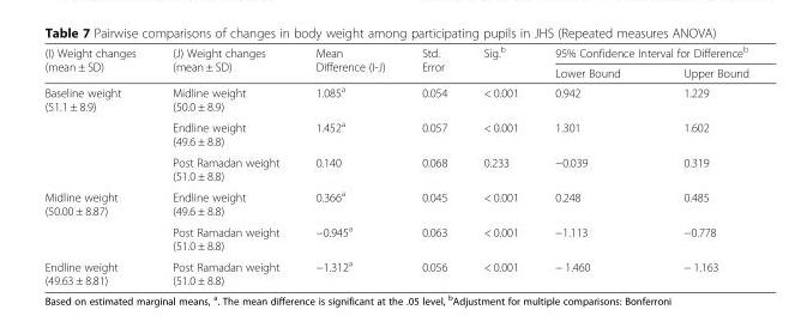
<table><thead><tr><td rowspan="2">(I) Weight changes (mean ± SD)</td><td rowspan="2">(J) Weight changes (mean ± SD)</td><td rowspan="2">Mean Difference (I-J)</td><td rowspan="2">Std. Error</td><td rowspan="2">Sig.<sup>b</sup></td><td colspan="2">95% Confidence Interval for Difference<sup>b</sup></td></tr><tr><td>Lower Bound</td><td>Upper Bound</td></tr></thead><tbody><tr><td rowspan="3">Baseline weight (51.1 ± 8.9)</td><td>Midline weight (50.0 ± 8.9)</td><td>1.085<sup>a</sup></td><td>0.054</td><td>&lt; 0.001</td><td>0.942</td><td>1.229</td></tr><tr><td>Endline weight (49.6 ± 8.8)</td><td>1.452<sup>a</sup></td><td>0.057</td><td>&lt; 0.001</td><td>1.301</td><td>1.602</td></tr><tr><td>Post Ramadan weight (51.0 ± 8.8)</td><td>0.140</td><td>0.068</td><td>0.233</td><td>−0.039</td><td>0.319</td></tr><tr><td rowspan="2">Midline weight (50.00 ± 8.87)</td><td>Endline weight (49.6 ± 8.8)</td><td>0.366<sup>a</sup></td><td>0.045</td><td>&lt; 0.001</td><td>0.248</td><td>0.485</td></tr><tr><td>Post Ramadan weight (51.0 ± 8.8)</td><td>−0.945<sup>a</sup></td><td>0.063</td><td>&lt; 0.001</td><td>−1.113</td><td>−0.778</td></tr><tr><td>Endline weight (49.63 ± 8.81)</td><td>Post Ramadan weight (51.0 ± 8.8)</td><td>−1.312<sup>a</sup></td><td>0.056</td><td>&lt; 0.001</td><td>− 1.460</td><td>− 1.163</td></tr></tbody></table>